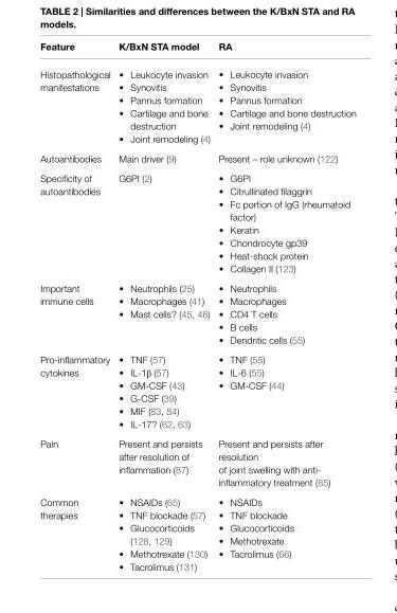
<table><thead><tr><td>Feature</td><td>K/BxN STA model</td><td>RA</td></tr></thead><tbody><tr><td>Histopathological manifestations</td><td>• Leukocyte invasion • Synovitis • Pannus formation • Cartilage and bone destruction • Joint remodeling (4)</td><td>• Leukocyte invasion • Synovitis • Pannus formation • Cartilage and bone destruction • Joint remodeling (4)</td></tr><tr><td>Autoantibodies</td><td>Main driver (9)</td><td>Present – role unknown (122)</td></tr><tr><td>Specificity of autoantibodies</td><td>G6PI (2)</td><td>• G6PI • Citrullinated filaggrin • Fc portion of IgG (rheumatoid factor) • Keratin • Chondrocyte gp39 • Heat-shock protein • Collagen II (123)</td></tr><tr><td>Important immune cells</td><td>• Neutrophils (25) • Macrophages (41) • Mast cells? (45, 46)</td><td>• Neutrophils • Macrophages • CD4 T cells • B cells • Dendritic cells (55)</td></tr><tr><td>Pro-inflammatory cytokines</td><td>• TNF (57) • IL-1β (57) • GM-CSF (43) • G-CSF (39) • MIF (83, 84) • IL-17? (62, 63)</td><td>• TNF (55) • IL-6 (55) • GM-CSF (44)</td></tr><tr><td>Pain</td><td>Present and persists after resolution of inflammation (87)</td><td>Present and persists after resolution of joint swelling with anti- inflammatory treatment (85)</td></tr><tr><td>Common therapies</td><td>• NSAIDs (65) • TNF blockade (57) • Glucocorticoids (128, 129) • Methotrexate (130) • Tacrolimus (131)</td><td>• NSAIDs • TNF blockade • Glucocorticoids • Methotrexate • Tacrolimus (66)</td></tr></tbody></table>